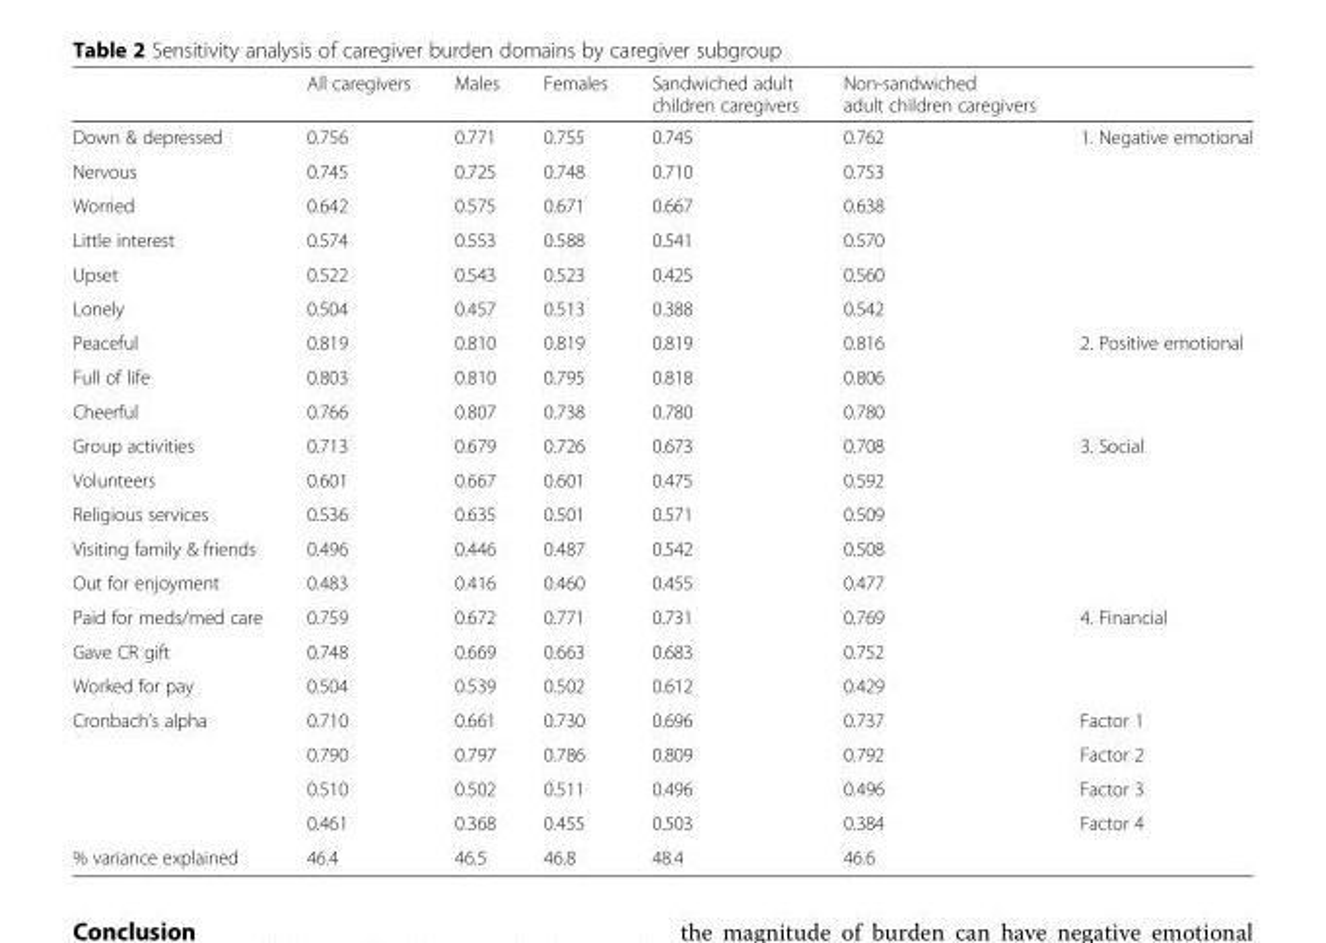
<table><thead><tr><td></td><td>All caregivers</td><td>Males</td><td>Females</td><td>Sandwiched adult children caregivers</td><td>Non-sandwiched adult children caregivers</td><td></td></tr></thead><tbody><tr><td>Down &amp; depressed</td><td>0.756</td><td>0.771</td><td>0.755</td><td>0.745</td><td>0.762</td><td rowspan="6">1. Negative emotional</td></tr><tr><td>Nervous</td><td>0.745</td><td>0.725</td><td>0.748</td><td>0.710</td><td>0.753</td></tr><tr><td>Worried</td><td>0.642</td><td>0.575</td><td>0.671</td><td>0.667</td><td>0.638</td></tr><tr><td>Little interest</td><td>0.574</td><td>0.553</td><td>0.588</td><td>0.541</td><td>0.570</td></tr><tr><td>Upset</td><td>0.522</td><td>0.543</td><td>0.523</td><td>0.425</td><td>0.560</td></tr><tr><td>Lonely</td><td>0.504</td><td>0.457</td><td>0.513</td><td>0.388</td><td>0.542</td></tr><tr><td>Peaceful</td><td>0.819</td><td>0.810</td><td>0.819</td><td>0.819</td><td>0.816</td><td rowspan="3">2. Positive emotional</td></tr><tr><td>Full of life</td><td>0.803</td><td>0.810</td><td>0.795</td><td>0.818</td><td>0.806</td></tr><tr><td>Cheerful</td><td>0.766</td><td>0.807</td><td>0.738</td><td>0.780</td><td>0.780</td></tr><tr><td>Group activities</td><td>0.713</td><td>0.679</td><td>0.726</td><td>0.673</td><td>0.708</td><td>3. Social</td></tr><tr><td>Volunteers</td><td>0.601</td><td>0.667</td><td>0.601</td><td>0.475</td><td>0.592</td><td></td></tr><tr><td>Religious services</td><td>0.536</td><td>0.635</td><td>0.501</td><td>0.571</td><td>0.509</td><td></td></tr><tr><td>Visiting family &amp; friends</td><td>0.496</td><td>0.446</td><td>0.487</td><td>0.542</td><td>0.508</td><td></td></tr><tr><td>Out for enjoyment</td><td>0.483</td><td>0.416</td><td>0.460</td><td>0.455</td><td>0.477</td><td></td></tr><tr><td>Paid for meds/med care</td><td>0.759</td><td>0.672</td><td>0.771</td><td>0.731</td><td>0.769</td><td>4. Financial</td></tr><tr><td>Gave CR gift</td><td>0.748</td><td>0.669</td><td>0.663</td><td>0.683</td><td>0.752</td><td></td></tr><tr><td>Worked for pay</td><td>0.504</td><td>0.539</td><td>0.502</td><td>0.612</td><td>0.429</td><td></td></tr><tr><td rowspan="4">Cronbach’s alpha</td><td>0.710</td><td>0.661</td><td>0.730</td><td>0.696</td><td>0.737</td><td>Factor 1</td></tr><tr><td>0.790</td><td>0.797</td><td>0.786</td><td>0.809</td><td>0.792</td><td>Factor 2</td></tr><tr><td>0.510</td><td>0.502</td><td>0.511</td><td>0.496</td><td>0.496</td><td>Factor 3</td></tr><tr><td>0.461</td><td>0.368</td><td>0.455</td><td>0.503</td><td>0.384</td><td>Factor 4</td></tr><tr><td>% variance explained</td><td>46.4</td><td>46.5</td><td>46.8</td><td>48.4</td><td>46.6</td><td></td></tr></tbody></table>